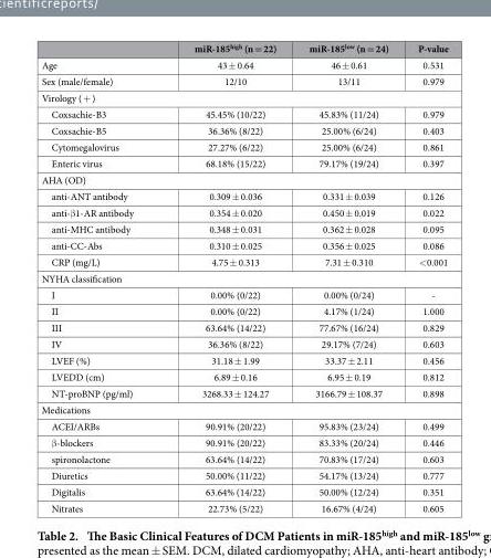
<table><thead><tr><td></td><td>miR-185<sup>high</sup> (n = 22)</td><td>miR-185<sup>low</sup> (n = 24)</td><td>P-value</td></tr></thead><tbody><tr><td>Age</td><td>43 ± 0.64</td><td>46 ± 0.61</td><td>0.531</td></tr><tr><td>Sex (male/female)</td><td>12/10</td><td>13/11</td><td>0.979</td></tr><tr><td colspan="4">Virology ( + )</td></tr><tr><td>Coxsachie-B3</td><td>45.45% (10/22)</td><td>45.83% (11/24)</td><td>0.979</td></tr><tr><td>Coxsachie-B5</td><td>36.36% (8/22)</td><td>25.00% (6/24)</td><td>0.403</td></tr><tr><td>Cytomegalovirus</td><td>27.27% (6/22)</td><td>25.00% (6/24)</td><td>0.861</td></tr><tr><td>Enteric virus</td><td>68.18% (15/22)</td><td>79.17% (19/24)</td><td>0.397</td></tr><tr><td colspan="4">AHA (OD)</td></tr><tr><td>anti-ANT antibody</td><td>0.309 ± 0.036</td><td>0.331 ± 0.039</td><td>0.126</td></tr><tr><td>anti-β 1-AR antibody</td><td>0.354 ± 0.020</td><td>0.450 ± 0.019</td><td>0.022</td></tr><tr><td>anti-MHC antibody</td><td>0.348 ± 0.031</td><td>0.362 ± 0.028</td><td>0.095</td></tr><tr><td>anti-CC-Abs</td><td>0.310 ± 0.025</td><td>0.356 ± 0.025</td><td>0.086</td></tr><tr><td>CRP (mg/L)</td><td>4.75 ± 0.313</td><td>7.31 ± 0.310</td><td>&lt; 0.001</td></tr><tr><td colspan="4">NYHA classification</td></tr><tr><td>I</td><td>0.00% (0/22)</td><td>0.00% (0/24)</td><td>-</td></tr><tr><td>II</td><td>0.00% (0/22)</td><td>4.17% (1/24)</td><td>1.000</td></tr><tr><td>III</td><td>63.64% (14/22)</td><td>77.67% (16/24)</td><td>0.829</td></tr><tr><td>IV</td><td>36.36% (8/22)</td><td>29.17% (7/24)</td><td>0.603</td></tr><tr><td>LVEF (%)</td><td>31.18 ± 1.99</td><td>33.37 ± 2.11</td><td>0.456</td></tr><tr><td>LVEDD (cm)</td><td>6.89 ± 0.16</td><td>6.95 ± 0.19</td><td>0.812</td></tr><tr><td>NT-proBNP (pg/ml)</td><td>3268.33 ± 124.27</td><td>3166.79 ± 108.37</td><td>0.898</td></tr><tr><td colspan="4">Medications</td></tr><tr><td>ACEI/ARBs</td><td>90.91% (20/22)</td><td>95.83% (23/24)</td><td>0.499</td></tr><tr><td>β -blockers</td><td>90.91% (20/22)</td><td>83.33% (20/24)</td><td>0.446</td></tr><tr><td>spironolactone</td><td>63.64% (14/22)</td><td>70.83% (17/24)</td><td>0.603</td></tr><tr><td>Diuretics</td><td>50.00% (11/22)</td><td>54.17% (13/24)</td><td>0.777</td></tr><tr><td>Digitalis</td><td>63.64% (14/22)</td><td>50.00% (12/24)</td><td>0.351</td></tr><tr><td>Nitrates</td><td>22.73% (5/22)</td><td>16.67% (4/24)</td><td>0.605</td></tr></tbody></table>